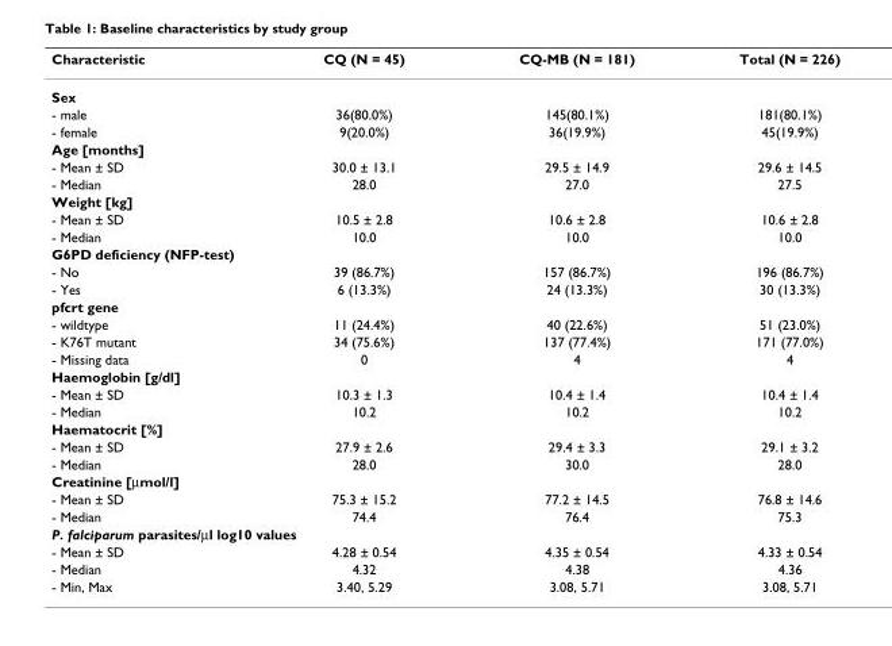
<table><thead><tr><td>Characteristic</td><td>CQ (N = 45)</td><td>CQ-MB (N = 181)</td><td>Total (N = 226)</td></tr></thead><tbody><tr><td colspan="4">Sex</td></tr><tr><td>- male</td><td>36(80.0%)</td><td>145(80.1%)</td><td>181(80.1%)</td></tr><tr><td>- female</td><td>9(20.0%)</td><td>36(19.9%)</td><td>45(19.9%)</td></tr><tr><td colspan="4">Age [months]</td></tr><tr><td>- Mean ± SD</td><td>30.0 ± 13.1</td><td>29.5 ± 14.9</td><td>29.6 ± 14.5</td></tr><tr><td>- Median</td><td>28.0</td><td>27.0</td><td>27.5</td></tr><tr><td colspan="4">Weight [kg]</td></tr><tr><td>- Mean ± SD</td><td>10.5 ± 2.8</td><td>10.6 ± 2.8</td><td>10.6 ± 2.8</td></tr><tr><td>- Median</td><td>10.0</td><td>10.0</td><td>10.0</td></tr><tr><td colspan="4">G6PD deficiency (NFP-test)</td></tr><tr><td>- No</td><td>39 (86.7%)</td><td>157 (86.7%)</td><td>196 (86.7%)</td></tr><tr><td>- Yes</td><td>6 (13.3%)</td><td>24 (13.3%)</td><td>30 (13.3%)</td></tr><tr><td colspan="4">pfcrt gene</td></tr><tr><td>- wildtype</td><td>11 (24.4%)</td><td>40 (22.6%)</td><td>51 (23.0%)</td></tr><tr><td>- K76T mutant</td><td>34 (75.6%)</td><td>137 (77.4%)</td><td>171 (77.0%)</td></tr><tr><td>- Missing data</td><td>0</td><td>4</td><td>4</td></tr><tr><td colspan="4">Haemoglobin [g/dl]</td></tr><tr><td>- Mean ± SD</td><td>10.3 ± 1.3</td><td>10.4 ± 1.4</td><td>10.4 ± 1.4</td></tr><tr><td>- Median</td><td>10.2</td><td>10.2</td><td>10.2</td></tr><tr><td colspan="4">Haematocrit [%]</td></tr><tr><td>- Mean ± SD</td><td>27.9 ± 2.6</td><td>29.4 ± 3.3</td><td>29.1 ± 3.2</td></tr><tr><td>- Median</td><td>28.0</td><td>30.0</td><td>28.0</td></tr><tr><td colspan="4">Creatinine [µmol/l]</td></tr><tr><td>- Mean ± SD</td><td>75.3 ± 15.2</td><td>77.2 ± 14.5</td><td>76.8 ± 14.6</td></tr><tr><td>- Median</td><td>74.4</td><td>76.4</td><td>75.3</td></tr><tr><td colspan="4">P. falciparum parasites/µl log10 values</td></tr><tr><td>- Mean ± SD</td><td>4.28 ± 0.54</td><td>4.35 ± 0.54</td><td>4.33 ± 0.54</td></tr><tr><td>- Median</td><td>4.32</td><td>4.38</td><td>4.36</td></tr><tr><td>- Min, Max</td><td>3.40, 5.29</td><td>3.08, 5.71</td><td>3.08, 5.71</td></tr></tbody></table>